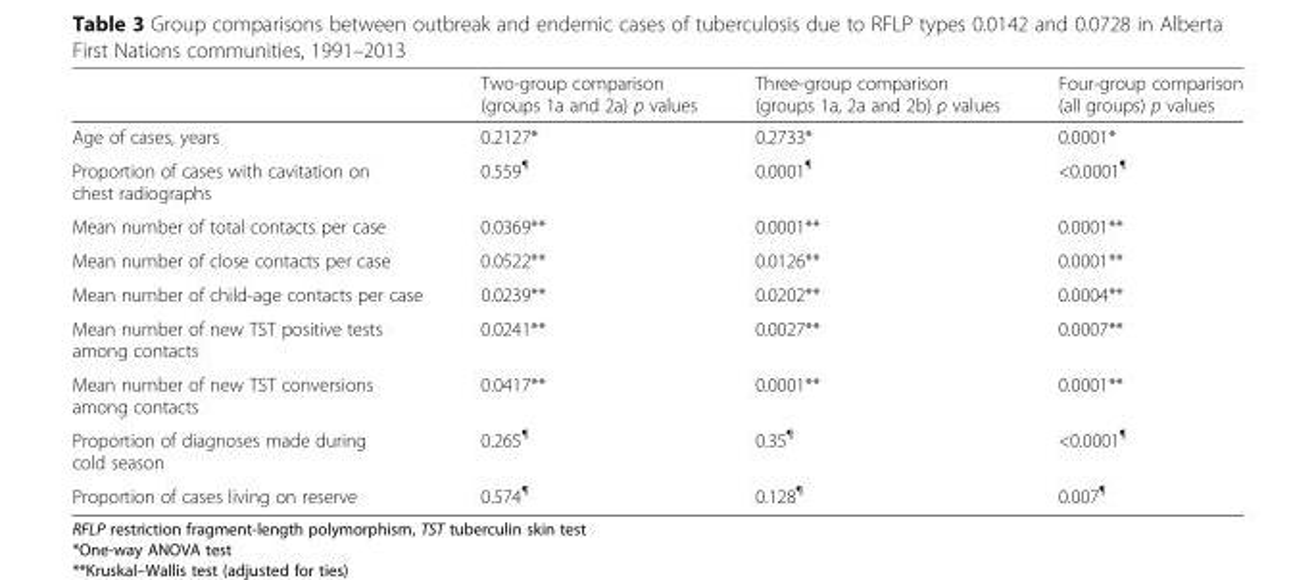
<table><thead><tr><td></td><td>Two-group comparison (groups 1a and 2a) p values</td><td>Three-group comparison (groups 1a, 2a and 2b) p values</td><td>Four-group comparison (all groups) p values</td></tr></thead><tbody><tr><td>Age of cases, years</td><td>0.2127*</td><td>0.2733*</td><td>0.0001*</td></tr><tr><td>Proportion of cases with cavitation on chest radiographs</td><td>0.559<sup>¶</sup></td><td>0.0001<sup>¶</sup></td><td>&lt;0.0001<sup>¶</sup></td></tr><tr><td>Mean number of total contacts per case</td><td>0.0369**</td><td>0.0001**</td><td>0.0001**</td></tr><tr><td>Mean number of close contacts per case</td><td>0.0522**</td><td>0.0126**</td><td>0.0001**</td></tr><tr><td>Mean number of child-age contacts per case</td><td>0.0239**</td><td>0.0202**</td><td>0.0004**</td></tr><tr><td>Mean number of new TST positive tests among contacts</td><td>0.0241**</td><td>0.0027**</td><td>0.0007**</td></tr><tr><td>Mean number of new TST conversions among contacts</td><td>0.0417**</td><td>0.0001**</td><td>0.0001**</td></tr><tr><td>Proportion of diagnoses made during cold season</td><td>0.265<sup>¶</sup></td><td>0.35<sup>¶</sup></td><td>&lt;0.0001<sup>¶</sup></td></tr><tr><td>Proportion of cases living on reserve</td><td>0.574<sup>¶</sup></td><td>0.128<sup>¶</sup></td><td>0.007<sup>¶</sup></td></tr></tbody></table>